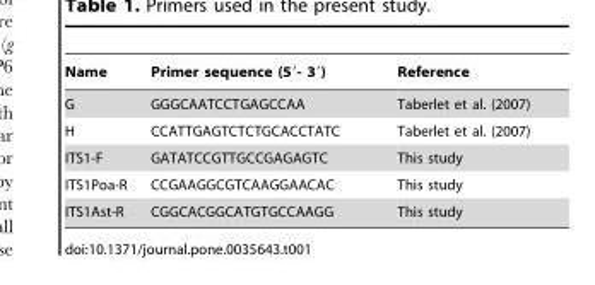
<table><thead><tr><td>Name</td><td>Primer sequence (5′- 3′)</td><td>Reference</td></tr></thead><tbody><tr><td>G</td><td>GGGCAATCCTGAGCCAA</td><td>Taberlet et al. (2007)</td></tr><tr><td>H</td><td>CCATTGAGTCTCTGCACCTATC</td><td>Taberlet et al. (2007)</td></tr><tr><td>ITS1-F</td><td>GATATCCGTTGCCGAGAGTC</td><td>This study</td></tr><tr><td>ITS1Poa-R</td><td>CCGAAGGCGTCAAGGAACAC</td><td>This study</td></tr><tr><td>ITS1Ast-R</td><td>CGGCACGGCATGTGCCAAGG</td><td>This study</td></tr></tbody></table>